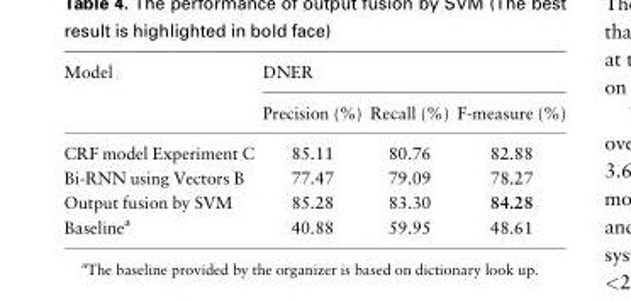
<table><thead><tr><td rowspan="2">Model</td><td colspan="3">DNER</td></tr><tr><td>Precision (%)</td><td>Recall (%)</td><td>F-measure (%)</td></tr></thead><tbody><tr><td>CRF model Experiment C</td><td>85.11</td><td>80.76</td><td>82.88</td></tr><tr><td>Bi-RNN using Vectors B</td><td>77.47</td><td>79.09</td><td>78.27</td></tr><tr><td>Output fusion by SVM</td><td>85.28</td><td>83.30</td><td>84.28</td></tr><tr><td>Baseline<sup>a</sup></td><td>40.88</td><td>59.95</td><td>48.61</td></tr></tbody></table>